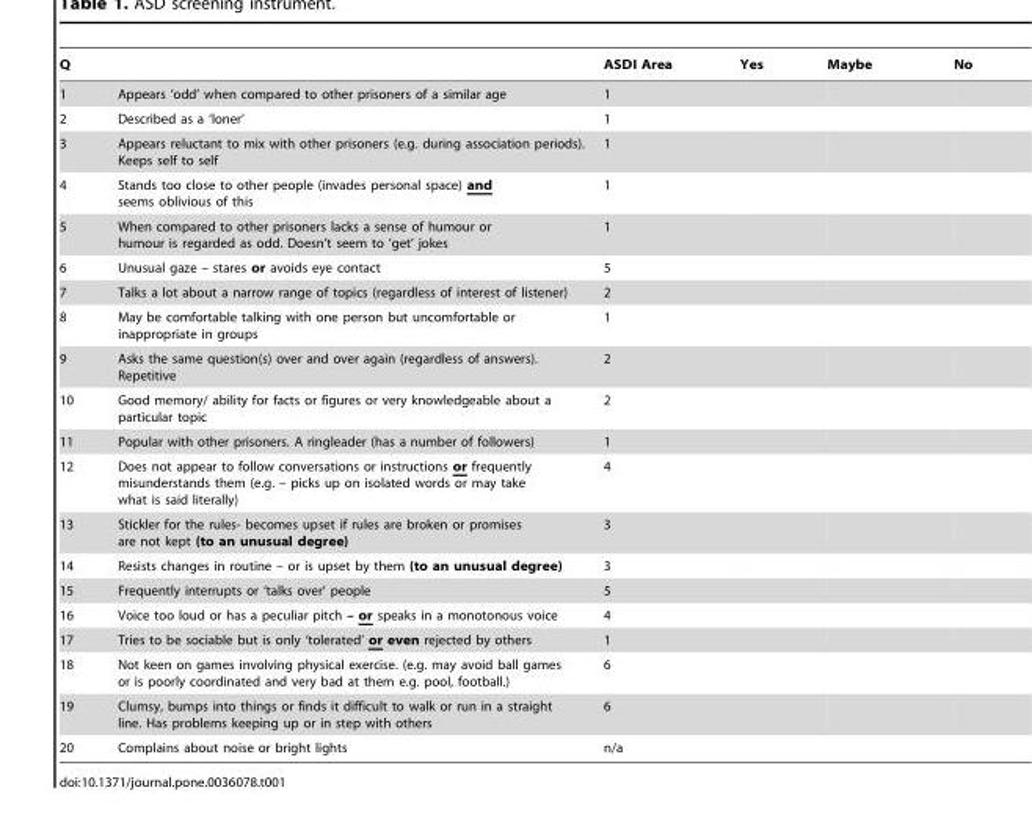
<table><thead><tr><td>Q</td><td></td><td>ASDI Area</td><td>Yes</td><td>Maybe</td><td>No</td></tr></thead><tbody><tr><td>1</td><td>Appears ‘odd’ when compared to other prisoners of a similar age</td><td>1</td><td></td><td></td><td></td></tr><tr><td>2</td><td>Described as a ‘loner’</td><td>1</td><td></td><td></td><td></td></tr><tr><td>3</td><td>Appears reluctant to mix with other prisoners (e.g. during association periods). Keeps self to self</td><td>1</td><td></td><td></td><td></td></tr><tr><td>4</td><td>Stands too close to other people (invades personal space) and seems oblivious of this</td><td>1</td><td></td><td></td><td></td></tr><tr><td>5</td><td>When compared to other prisoners lacks a sense of humour or humour is regarded as odd. Doesn’t seem to ‘get’ jokes</td><td>1</td><td></td><td></td><td></td></tr><tr><td>6</td><td>Unusual gaze – stares or avoids eye contact</td><td>5</td><td></td><td></td><td></td></tr><tr><td>7</td><td>Talks a lot about a narrow range of topics (regardless of interest of listener)</td><td>2</td><td></td><td></td><td></td></tr><tr><td>8</td><td>May be comfortable talking with one person but uncomfortable or inappropriate in groups</td><td>1</td><td></td><td></td><td></td></tr><tr><td>9</td><td>Asks the same question(s) over and over again (regardless of answers). Repetitive</td><td>2</td><td></td><td></td><td></td></tr><tr><td>10</td><td>Good memory/ ability for facts or figures or very knowledgeable about a particular topic</td><td>2</td><td></td><td></td><td></td></tr><tr><td>11</td><td>Popular with other prisoners. A ringleader (has a number of followers)</td><td>1</td><td></td><td></td><td></td></tr><tr><td>12</td><td>Does not appear to follow conversations or instructions or frequently misunderstands them (e.g. – picks up on isolated words or may take what is said literally)</td><td>4</td><td></td><td></td><td></td></tr><tr><td>13</td><td>Stickler for the rules- becomes upset if rules are broken or promises are not kept (to an unusual degree)</td><td>3</td><td></td><td></td><td></td></tr><tr><td>14</td><td>Resists changes in routine – or is upset by them (to an unusual degree)</td><td>3</td><td></td><td></td><td></td></tr><tr><td>15</td><td>Frequently interrupts or ‘talks over’ people</td><td>5</td><td></td><td></td><td></td></tr><tr><td>16</td><td>Voice too loud or has a peculiar pitch – or speaks in a monotonous voice</td><td>4</td><td></td><td></td><td></td></tr><tr><td>17</td><td>Tries to be sociable but is only ‘tolerated’ or even rejected by others</td><td>1</td><td></td><td></td><td></td></tr><tr><td>18</td><td>Not keen on games involving physical exercise. (e.g. may avoid ball games or is poorly coordinated and very bad at them e.g. pool, football.)</td><td>6</td><td></td><td></td><td></td></tr><tr><td>19</td><td>Clumsy, bumps into things or finds it difficult to walk or run in a straight line. Has problems keeping up or in step with others</td><td>6</td><td></td><td></td><td></td></tr><tr><td>20</td><td>Complains about noise or bright lights</td><td>n/a</td><td></td><td></td><td></td></tr></tbody></table>